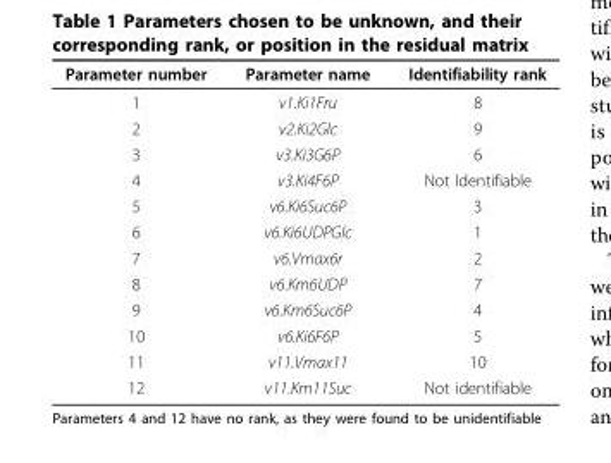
<table><thead><tr><td>Parameter number</td><td>Parameter name</td><td>Identifiability rank</td></tr></thead><tbody><tr><td>1</td><td>v1.Ki1Fru</td><td>8</td></tr><tr><td>2</td><td>v2.Ki2Glc</td><td>9</td></tr><tr><td>3</td><td>v3.Ki3G6P</td><td>6</td></tr><tr><td>4</td><td>v3.Ki4F6P</td><td>Not Identifiable</td></tr><tr><td>5</td><td>v6.Ki6Suc6P</td><td>3</td></tr><tr><td>6</td><td>v6.Ki6UDPGlc</td><td>1</td></tr><tr><td>7</td><td>v6.Vmax6r</td><td>2</td></tr><tr><td>8</td><td>v6.Km6UDP</td><td>7</td></tr><tr><td>9</td><td>v6.Km6Suc6P</td><td>4</td></tr><tr><td>10</td><td>v6.Ki6F6P</td><td>5</td></tr><tr><td>11</td><td>v11.Vmax11</td><td>10</td></tr><tr><td>12</td><td>v11.Km11Suc</td><td>Not identifiable</td></tr></tbody></table>